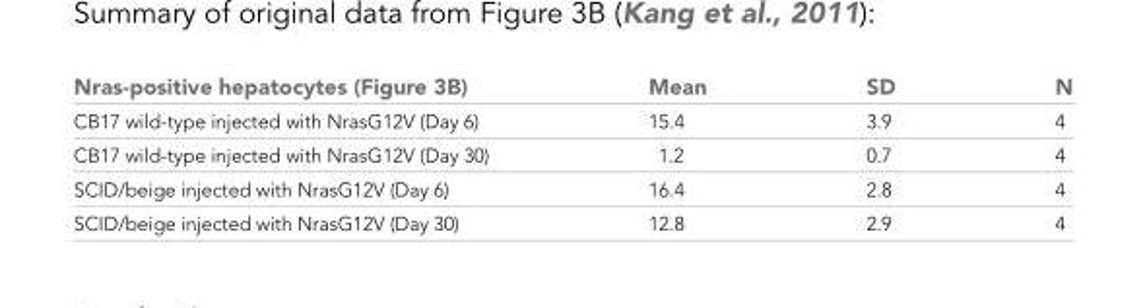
<table><thead><tr><td>Nras-positive hepatocytes (Figure 3B)</td><td>Mean</td><td>SD</td><td>N</td></tr></thead><tbody><tr><td>CB17 wild-type injected with NrasG12V (Day 6)</td><td>15.4</td><td>3.9</td><td>4</td></tr><tr><td>CB17 wild-type injected with NrasG12V (Day 30)</td><td>1.2</td><td>0.7</td><td>4</td></tr><tr><td>SCID/beige injected with NrasG12V (Day 6)</td><td>16.4</td><td>2.8</td><td>4</td></tr><tr><td>SCID/beige injected with NrasG12V (Day 30)</td><td>12.8</td><td>2.9</td><td>4</td></tr></tbody></table>